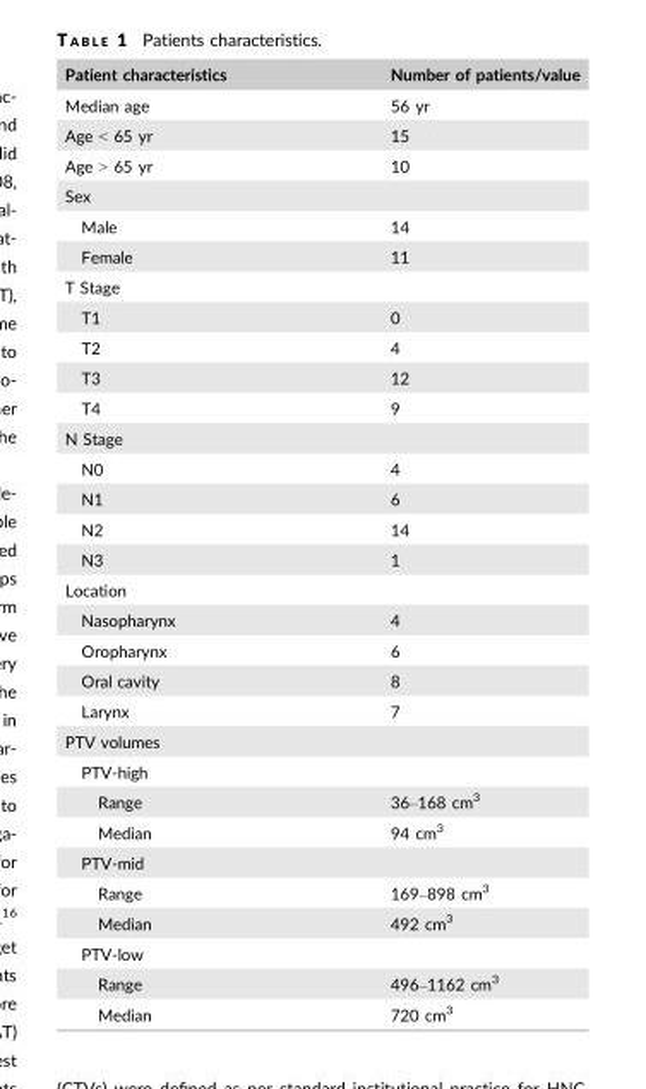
<table><thead><tr><td>Patient characteristics</td><td>Number of patients/value</td></tr></thead><tbody><tr><td>Median age</td><td>56 yr</td></tr><tr><td>Age &lt; 65 yr</td><td>15</td></tr><tr><td>Age &gt; 65 yr</td><td>10</td></tr><tr><td colspan="2">Sex</td></tr><tr><td>Male</td><td>14</td></tr><tr><td>Female</td><td>11</td></tr><tr><td colspan="2">T Stage</td></tr><tr><td>T1</td><td>0</td></tr><tr><td>T2</td><td>4</td></tr><tr><td>T3</td><td>12</td></tr><tr><td>T4</td><td>9</td></tr><tr><td colspan="2">N Stage</td></tr><tr><td>N0</td><td>4</td></tr><tr><td>N1</td><td>6</td></tr><tr><td>N2</td><td>14</td></tr><tr><td>N3</td><td>1</td></tr><tr><td colspan="2">Location</td></tr><tr><td>Nasopharynx</td><td>4</td></tr><tr><td>Oropharynx</td><td>6</td></tr><tr><td>Oral cavity</td><td>8</td></tr><tr><td>Larynx</td><td>7</td></tr><tr><td colspan="2">PTV volumes</td></tr><tr><td colspan="2">PTV-high</td></tr><tr><td>Range</td><td>36–168 cm<sup>3</sup></td></tr><tr><td>Median</td><td>94 cm<sup>3</sup></td></tr><tr><td colspan="2">PTV-mid</td></tr><tr><td>Range</td><td>169–898 cm<sup>3</sup></td></tr><tr><td>Median</td><td>492 cm<sup>3</sup></td></tr><tr><td colspan="2">PTV-low</td></tr><tr><td>Range</td><td>496–1162 cm<sup>3</sup></td></tr><tr><td>Median</td><td>720 cm<sup>3</sup></td></tr></tbody></table>